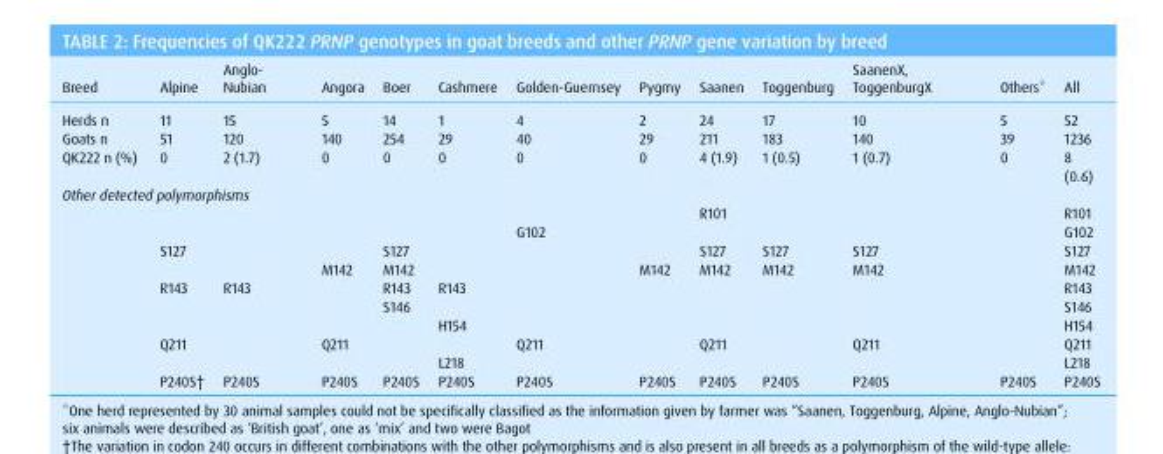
<table><thead><tr><td>Breed</td><td>Alpine</td><td>Anglo- Nubian</td><td>Angora</td><td>Boer</td><td>Cashmere</td><td>Golden-Guernsey</td><td>Pygmy</td><td>Saanen</td><td>Toggenburg</td><td>SaanenX, ToggenburgX</td><td>Others*</td><td>All</td></tr></thead><tbody><tr><td>Herds n</td><td>11</td><td>15</td><td>5</td><td>14</td><td>1</td><td>4</td><td>2</td><td>24</td><td>17</td><td>10</td><td>5</td><td>52</td></tr><tr><td>Goats n</td><td>51</td><td>120</td><td>140</td><td>254</td><td>29</td><td>40</td><td>29</td><td>211</td><td>183</td><td>140</td><td>39</td><td>1236</td></tr><tr><td>QK222 n (%)</td><td>0</td><td>2 (1.7)</td><td>0</td><td>0</td><td>0</td><td>0</td><td>0</td><td>4 (1.9)</td><td>1 (0.5)</td><td>1 (0.7)</td><td>0</td><td>8 (0.6)</td></tr><tr><td colspan="13">Other detected polymorphisms</td></tr><tr><td></td><td></td><td></td><td></td><td></td><td></td><td></td><td></td><td>R101</td><td></td><td></td><td></td><td>R101</td></tr><tr><td></td><td></td><td></td><td></td><td></td><td></td><td>G102</td><td></td><td></td><td></td><td></td><td></td><td>G102</td></tr><tr><td></td><td>S127</td><td></td><td></td><td>S127</td><td></td><td></td><td></td><td>S127</td><td>S127</td><td>S127</td><td></td><td>S127</td></tr><tr><td></td><td></td><td></td><td>M142</td><td>M142</td><td></td><td></td><td>M142</td><td>M142</td><td>M142</td><td>M142</td><td></td><td>M142</td></tr><tr><td></td><td>R143</td><td>R143</td><td></td><td>R143</td><td>R143</td><td></td><td></td><td></td><td></td><td></td><td></td><td>R143</td></tr><tr><td></td><td></td><td></td><td></td><td>S146</td><td></td><td></td><td></td><td></td><td></td><td></td><td></td><td>S146</td></tr><tr><td></td><td></td><td></td><td></td><td></td><td>H154</td><td></td><td></td><td></td><td></td><td></td><td></td><td>H154</td></tr><tr><td></td><td>Q211</td><td></td><td>Q211</td><td></td><td></td><td>Q211</td><td></td><td>Q211</td><td></td><td>Q211</td><td></td><td>Q211</td></tr><tr><td></td><td></td><td></td><td></td><td></td><td>L218</td><td></td><td></td><td></td><td></td><td></td><td></td><td>L218</td></tr><tr><td></td><td>P240S†</td><td>P240S</td><td>P240S</td><td>P240S</td><td>P240S</td><td>P240S</td><td>P240S</td><td>P240S</td><td>P240S</td><td>P240S</td><td>P240S</td><td>P240S</td></tr></tbody></table>